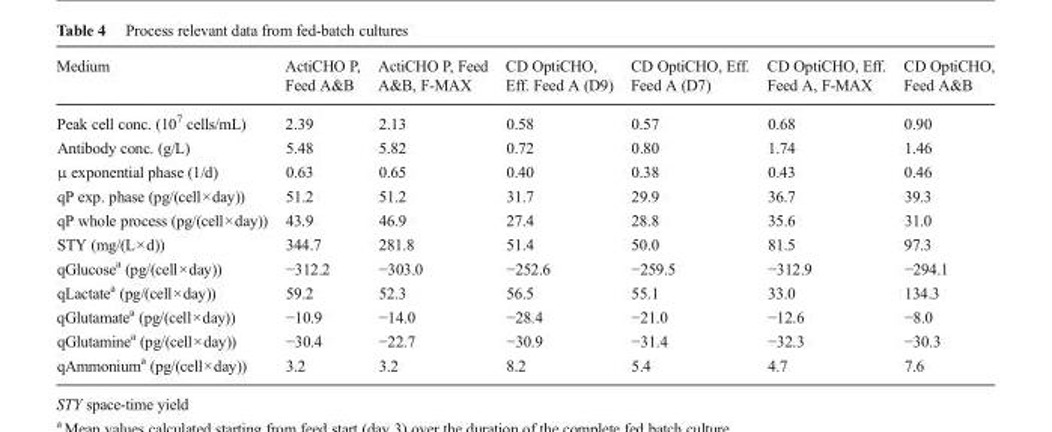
<table><thead><tr><td>Medium</td><td>ActiCHO P, Feed A&amp;B</td><td>ActiCHO P, Feed A&amp;B, F-MAX</td><td>CD OptiCHO, Eff. Feed A (D9)</td><td>CD OptiCHO, Eff. Feed A (D7)</td><td>CD OptiCHO, Eff. Feed A, F-MAX</td><td>CD OptiCHO, Feed A&amp;B</td></tr></thead><tbody><tr><td>Peak cell conc. (10<sup>7</sup> cells/mL)</td><td>2.39</td><td>2.13</td><td>0.58</td><td>0.57</td><td>0.68</td><td>0.90</td></tr><tr><td>Antibody conc. (g/L)</td><td>5.48</td><td>5.82</td><td>0.72</td><td>0.80</td><td>1.74</td><td>1.46</td></tr><tr><td>μ exponential phase (1/d)</td><td>0.63</td><td>0.65</td><td>0.40</td><td>0.38</td><td>0.43</td><td>0.46</td></tr><tr><td>qP exp. phase (pg/(cell×day))</td><td>51.2</td><td>51.2</td><td>31.7</td><td>29.9</td><td>36.7</td><td>39.3</td></tr><tr><td>qP whole process (pg/(cell×day))</td><td>43.9</td><td>46.9</td><td>27.4</td><td>28.8</td><td>35.6</td><td>31.0</td></tr><tr><td>STY (mg/(L×d))</td><td>344.7</td><td>281.8</td><td>51.4</td><td>50.0</td><td>81.5</td><td>97.3</td></tr><tr><td>qGlucose<sup>a</sup> (pg/(cell×day))</td><td>−312.2</td><td>−303.0</td><td>−252.6</td><td>−259.5</td><td>−312.9</td><td>−294.1</td></tr><tr><td>qLactate<sup>a</sup> (pg/(cell×day))</td><td>59.2</td><td>52.3</td><td>56.5</td><td>55.1</td><td>33.0</td><td>134.3</td></tr><tr><td>qGlutamate<sup>a</sup> (pg/(cell×day))</td><td>−10.9</td><td>−14.0</td><td>−28.4</td><td>−21.0</td><td>−12.6</td><td>−8.0</td></tr><tr><td>qGlutamine<sup>a</sup> (pg/(cell×day))</td><td>−30.4</td><td>−22.7</td><td>−30.9</td><td>−31.4</td><td>−32.3</td><td>−30.3</td></tr><tr><td>qAmmonium<sup>a</sup> (pg/(cell×day))</td><td>3.2</td><td>3.2</td><td>8.2</td><td>5.4</td><td>4.7</td><td>7.6</td></tr></tbody></table>